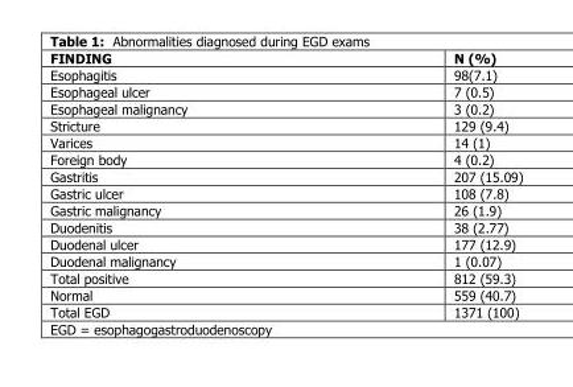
<table><thead><tr><td>FINDING</td><td>N (%)</td></tr></thead><tbody><tr><td>Esophagitis</td><td>98(7.1)</td></tr><tr><td>Esophageal ulcer</td><td>7 (0.5)</td></tr><tr><td>Esophageal malignancy</td><td>3 (0.2)</td></tr><tr><td>Stricture</td><td>129 (9.4)</td></tr><tr><td>Varices</td><td>14 (1)</td></tr><tr><td>Foreign body</td><td>4 (0.2)</td></tr><tr><td>Gastritis</td><td>207 (15.09)</td></tr><tr><td>Gastric ulcer</td><td>108 (7.8)</td></tr><tr><td>Gastric malignancy</td><td>26 (1.9)</td></tr><tr><td>Duodenitis</td><td>38 (2.77)</td></tr><tr><td>Duodenal ulcer</td><td>177 (12.9)</td></tr><tr><td>Duodenal malignancy</td><td>1 (0.07)</td></tr><tr><td>Total positive</td><td>812 (59.3)</td></tr><tr><td>Normal</td><td>559 (40.7)</td></tr><tr><td>Total EGD</td><td>1371 (100)</td></tr><tr><td colspan="2">EGD = esophagogastroduodenoscopy</td></tr></tbody></table>